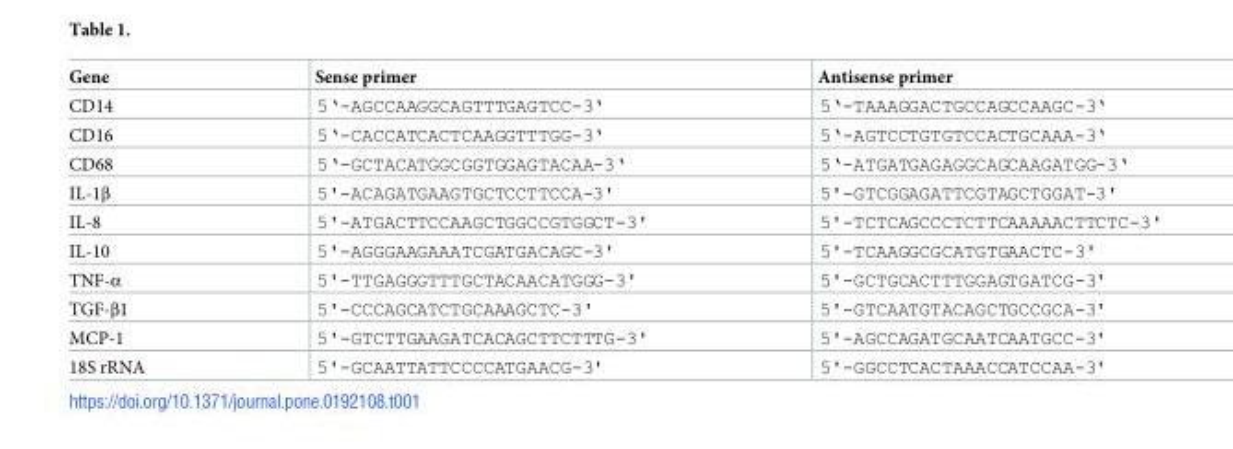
<table><thead><tr><td>Gene</td><td>Sense primer</td><td>Antisense primer</td></tr></thead><tbody><tr><td>CD14</td><td>5‘-AGCCAAGGCAGTTTGAGTCC-3‘</td><td>5‘-TAAAGGACTGCCAGCCAAGC-3‘</td></tr><tr><td>CD16</td><td>5‘-CACCATCACTCAAGGTTTGG-3‘</td><td>5‘-AGTCCTGTGTCCACTGCAAA-3‘</td></tr><tr><td>CD68</td><td>5‘-GCTACATGGCGGTGGAGTACAA-3‘</td><td>5‘-ATGATGAGAGGCAGCAAGATGG-3‘</td></tr><tr><td>IL-1β</td><td>5&#x27;-ACAGATGAAGTGCTCCTTCCA-3&#x27;</td><td>5&#x27;-GTCGGAGATTCGTAGCTGGAT-3&#x27;</td></tr><tr><td>IL-8</td><td>5&#x27;-ATGACTTCCAAGCTGGCCGTGGCT-3&#x27;</td><td>5&#x27;-TCTCAGCCCTCTTCAAAAACTTCTC-3&#x27;</td></tr><tr><td>IL-10</td><td>5&#x27;-AGGGAAGAAATCGATGACAGC-3&#x27;</td><td>5&#x27;-TCAAGGCGCATGTGAACTC-3&#x27;</td></tr><tr><td>TNF-α</td><td>5&#x27;-TTGAGGGTTTGCTACAACATGGG-3&#x27;</td><td>5&#x27;-GCTGCACTTTGGAGTGATCG-3&#x27;</td></tr><tr><td>TGF-β1</td><td>5&#x27;-CCCAGCATCTGCAAAGCTC-3&#x27;</td><td>5&#x27;-GTCAATGTACAGCTGCCGCA-3&#x27;</td></tr><tr><td>MCP-1</td><td>5&#x27;-GTCTTGAAGATCACAGCTTCTTTG-3&#x27;</td><td>5&#x27;-AGCCAGATGCAATCAATGCC-3&#x27;</td></tr><tr><td>18S rRNA</td><td>5&#x27;-GCAATTATTCCCCATGAACG-3&#x27;</td><td>5&#x27;-GGCCTCACTAAACCATCCAA-3&#x27;</td></tr></tbody></table>